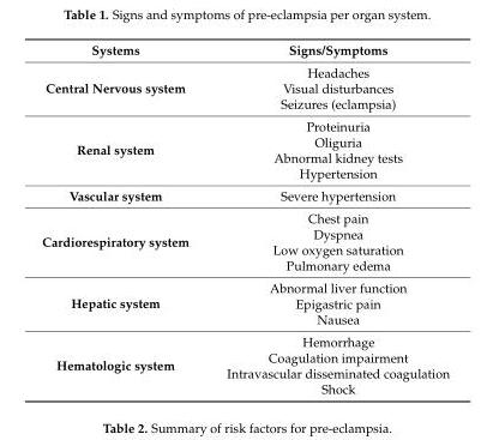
<table><thead><tr><td>Systems</td><td>Signs/Symptoms</td></tr></thead><tbody><tr><td rowspan="3">Central Nervous system</td><td>Headaches</td></tr><tr><td>Visual disturbances</td></tr><tr><td>Seizures (eclampsia)</td></tr><tr><td rowspan="4">Renal system</td><td>Proteinuria</td></tr><tr><td>Oliguria</td></tr><tr><td>Abnormal kidney tests</td></tr><tr><td>Hypertension</td></tr><tr><td>Vascular system</td><td>Severe hypertension</td></tr><tr><td rowspan="4">Cardiorespiratory system</td><td>Chest pain</td></tr><tr><td>Dyspnea</td></tr><tr><td>Low oxygen saturation</td></tr><tr><td>Pulmonary edema</td></tr><tr><td rowspan="3">Hepatic system</td><td>Abnormal liver function</td></tr><tr><td>Epigastric pain</td></tr><tr><td>Nausea</td></tr><tr><td rowspan="4">Hematologic system</td><td>Hemorrhage</td></tr><tr><td>Coagulation impairment</td></tr><tr><td>Intravascular disseminated coagulation</td></tr><tr><td>Shock</td></tr></tbody></table>